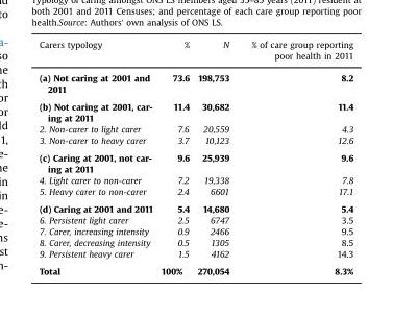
<table><thead><tr><td>Carers typology</td><td>%</td><td>N</td><td>% of care group reporting poor health in 2011</td></tr></thead><tbody><tr><td>(a) Not caring at 2001 and 2011</td><td>73.6</td><td>198,753</td><td>8.2</td></tr><tr><td>(b) Not caring at 2001, car- ing at 2011</td><td>11.4</td><td>30,682</td><td>11.4</td></tr><tr><td>2. Non-carer to light carer</td><td>7.6</td><td>20,559</td><td>4.3</td></tr><tr><td>3. Non-carer to heavy carer</td><td>3.7</td><td>10,123</td><td>12.6</td></tr><tr><td>(c) Caring at 2001, not car- ing at 2011</td><td>9.6</td><td>25,939</td><td>9.6</td></tr><tr><td>4. Light carer to non-carer</td><td>7.2</td><td>19,338</td><td>7.8</td></tr><tr><td>5. Heavy carer to non-carer</td><td>2.4</td><td>6601</td><td>17.1</td></tr><tr><td>(d) Caring at 2001 and 2011</td><td>5.4</td><td>14,680</td><td>5.4</td></tr><tr><td>6. Persistent light carer</td><td>2.5</td><td>6747</td><td>3.5</td></tr><tr><td>7. Carer, increasing intensity</td><td>0.9</td><td>2466</td><td>9.5</td></tr><tr><td>8. Carer, decreasing intensity</td><td>0.5</td><td>1305</td><td>8.5</td></tr><tr><td>9. Persistent heavy carer</td><td>1.5</td><td>4162</td><td>14.3</td></tr><tr><td>Total</td><td>100%</td><td>270,054</td><td>8.3%</td></tr></tbody></table>